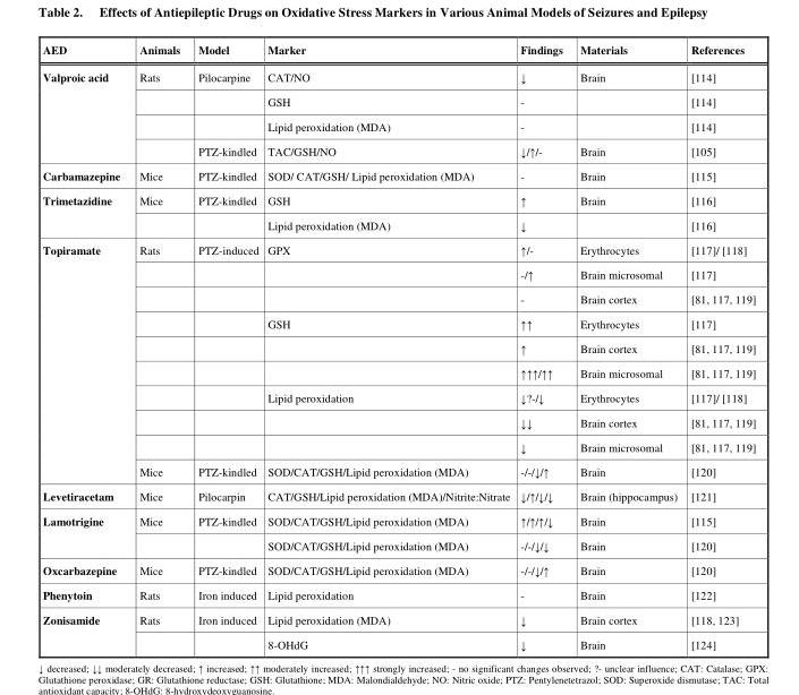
<table><thead><tr><td>AED</td><td>Animals</td><td>Model</td><td>Marker</td><td>Findings</td><td>Materials</td><td>References</td></tr></thead><tbody><tr><td rowspan="4">Valproic acid</td><td>Rats</td><td>Pilocarpine</td><td>CAT/NO</td><td>↓</td><td>Brain</td><td>[114]</td></tr><tr><td></td><td></td><td>GSH</td><td>-</td><td></td><td>[114]</td></tr><tr><td></td><td></td><td>Lipid peroxidation (MDA)</td><td>-</td><td></td><td>[114]</td></tr><tr><td></td><td>PTZ-kindled</td><td>TAC/GSH/NO</td><td>↓/↑/-</td><td>Brain</td><td>[105]</td></tr><tr><td>Carbamazepine</td><td>Mice</td><td>PTZ-kindled</td><td>SOD/ CAT/GSH/ Lipid peroxidation (MDA)</td><td>-</td><td>Brain</td><td>[115]</td></tr><tr><td rowspan="2">Trimetazidine</td><td>Mice</td><td>PTZ-kindled</td><td>GSH</td><td>↑</td><td>Brain</td><td>[116]</td></tr><tr><td></td><td></td><td>Lipid peroxidation (MDA)</td><td>↓</td><td></td><td>[116]</td></tr><tr><td rowspan="10">Topiramate</td><td>Rats</td><td>PTZ-induced</td><td>GPX</td><td>↑/-</td><td>Erythrocytes</td><td>[117]/ [118]</td></tr><tr><td></td><td></td><td></td><td>-/↑</td><td>Brain microsomal</td><td>[117]</td></tr><tr><td></td><td></td><td></td><td>-</td><td>Brain cortex</td><td>[81, 117, 119]</td></tr><tr><td></td><td></td><td>GSH</td><td>↑↑</td><td>Erythrocytes</td><td>[117]</td></tr><tr><td></td><td></td><td></td><td>↑</td><td>Brain cortex</td><td>[81, 117, 119]</td></tr><tr><td></td><td></td><td></td><td>↑↑↑/↑↑</td><td>Brain microsomal</td><td>[81, 117, 119]</td></tr><tr><td></td><td></td><td>Lipid peroxidation</td><td>↓?-/↓</td><td>Erythrocytes</td><td>[117]/ [118]</td></tr><tr><td></td><td></td><td></td><td>↓↓</td><td>Brain cortex</td><td>[81, 117, 119]</td></tr><tr><td></td><td></td><td></td><td>↓</td><td>Brain microsomal</td><td>[81, 117, 119]</td></tr><tr><td>Mice</td><td>PTZ-kindled</td><td>SOD/CAT/GSH/Lipid peroxidation (MDA)</td><td>-/-/↓/↑</td><td>Brain</td><td>[120]</td></tr><tr><td>Levetiracetam</td><td>Mice</td><td>Pilocarpin</td><td>CAT/GSH/Lipid peroxidation (MDA)/Nitrite:Nitrate</td><td>↓/↑/↓/↓</td><td>Brain (hippocampus)</td><td>[121]</td></tr><tr><td rowspan="2">Lamotrigine</td><td>Mice</td><td>PTZ-kindled</td><td>SOD/CAT/GSH/Lipid peroxidation (MDA)</td><td>↑/↑/↑/↓</td><td>Brain</td><td>[115]</td></tr><tr><td></td><td></td><td>SOD/CAT/GSH/Lipid peroxidation (MDA)</td><td>-/-/↓/↓</td><td>Brain</td><td>[120]</td></tr><tr><td>Oxcarbazepine</td><td>Mice</td><td>PTZ-kindled</td><td>SOD/CAT/GSH/Lipid peroxidation (MDA)</td><td>-/-/↓/↑</td><td>Brain</td><td>[120]</td></tr><tr><td>Phenytoin</td><td>Rats</td><td>Iron induced</td><td>Lipid peroxidation</td><td>-</td><td>Brain</td><td>[122]</td></tr><tr><td rowspan="2">Zonisamide</td><td>Rats</td><td>Iron induced</td><td>Lipid peroxidation (MDA)</td><td>↓</td><td>Brain cortex</td><td>[118, 123]</td></tr><tr><td></td><td></td><td>8-OHdG</td><td>↓</td><td>Brain</td><td>[124]</td></tr></tbody></table>